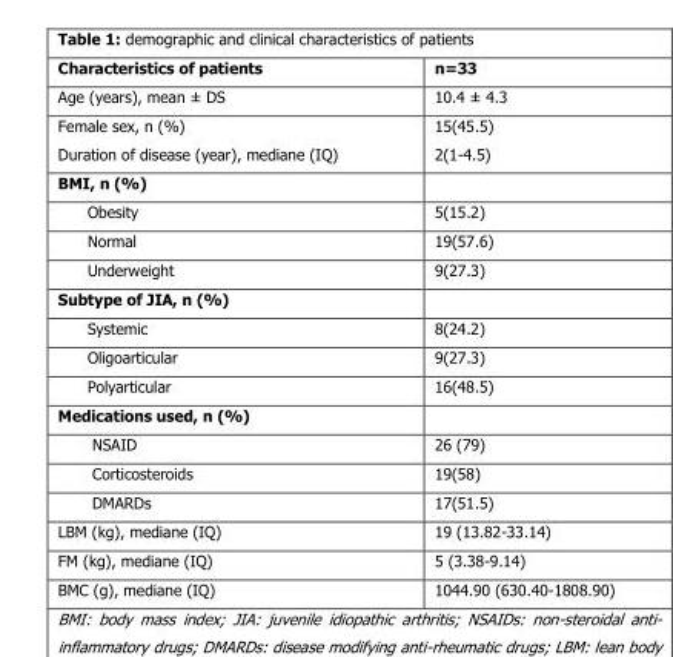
<table><thead><tr><td>Characteristics of patients</td><td>n=33</td></tr></thead><tbody><tr><td>Age (years), mean ± DS</td><td>10.4 ± 4.3</td></tr><tr><td>Female sex, n (%) Duration of disease (year), mediane (IQ)</td><td>15(45.5) 2(1-4.5)</td></tr><tr><td colspan="2">BMI, n (%)</td></tr><tr><td>Obesity</td><td>5(15.2)</td></tr><tr><td>Normal</td><td>19(57.6)</td></tr><tr><td>Underweight</td><td>9(27.3)</td></tr><tr><td colspan="2">Subtype of JIA, n (%)</td></tr><tr><td>Systemic</td><td>8(24.2)</td></tr><tr><td>Oligoarticular</td><td>9(27.3)</td></tr><tr><td>Polyarticular</td><td>16(48.5)</td></tr><tr><td colspan="2">Medications used, n (%)</td></tr><tr><td>NSAID</td><td>26 (79)</td></tr><tr><td>Corticosteroids</td><td>19(58)</td></tr><tr><td>DMARDs</td><td>17(51.5)</td></tr><tr><td>LBM (kg), mediane (IQ)</td><td>19 (13.82-33.14)</td></tr><tr><td>FM (kg), mediane (IQ)</td><td>5 (3.38-9.14)</td></tr><tr><td>BMC (g), mediane (IQ)</td><td>1044.90 (630.40-1808.90)</td></tr></tbody></table>